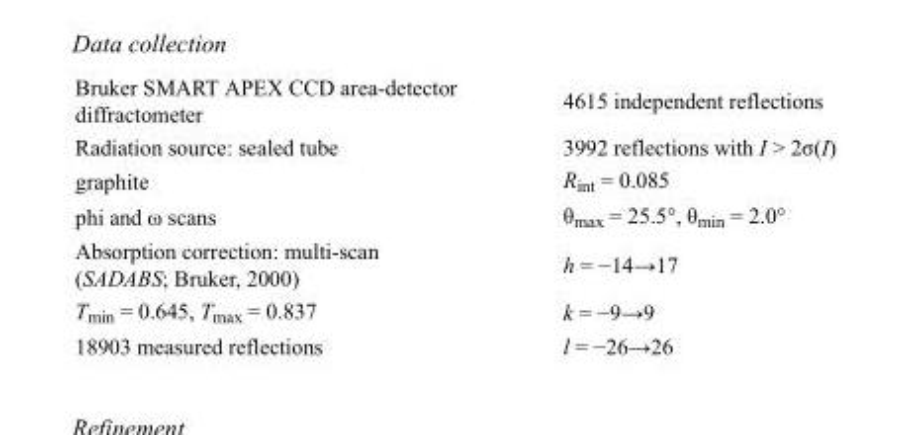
<table><tbody><tr><td>Bruker SMART APEX CCD area-detector diffractometer</td><td>4615 independent reflections</td></tr><tr><td>Radiation source: sealed tube</td><td>3992 reflections with I &gt; 2σ(I)</td></tr><tr><td>graphite</td><td>R<sub>int</sub> = 0.085</td></tr><tr><td>phi and ω scans</td><td>θ<sub>max</sub> = 25.5°, θ<sub>min</sub> = 2.0°</td></tr><tr><td>Absorption correction: multi-scan (SADABS; Bruker, 2000)</td><td>h = −14→17</td></tr><tr><td>T<sub>min</sub> = 0.645, T<sub>max</sub> = 0.837</td><td>k = −9→9</td></tr><tr><td>18903 measured reflections</td><td>l = −26→26</td></tr></tbody></table>